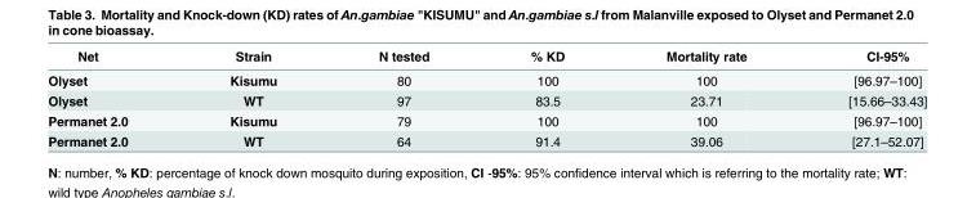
<table><thead><tr><td>Net</td><td>Strain</td><td>N tested</td><td>% KD</td><td>Mortality rate</td><td>CI-95%</td></tr></thead><tbody><tr><td>Olyset</td><td>Kisumu</td><td>80</td><td>100</td><td>100</td><td>[96.97–100]</td></tr><tr><td>Olyset</td><td>WT</td><td>97</td><td>83.5</td><td>23.71</td><td>[15.66–33.43]</td></tr><tr><td>Permanet 2.0</td><td>Kisumu</td><td>79</td><td>100</td><td>100</td><td>[96.97–100]</td></tr><tr><td>Permanet 2.0</td><td>WT</td><td>64</td><td>91.4</td><td>39.06</td><td>[27.1–52.07]</td></tr></tbody></table>